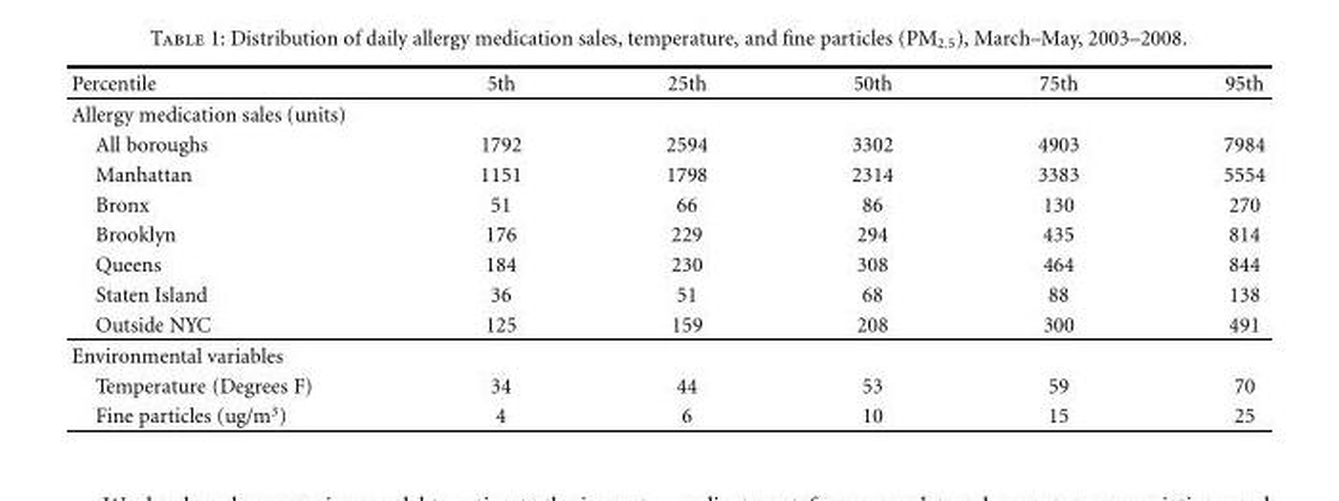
<table><thead><tr><td>Percentile</td><td>5th</td><td>25th</td><td>50th</td><td>75th</td><td>95th</td></tr></thead><tbody><tr><td colspan="6">Allergy medication sales (units)</td></tr><tr><td>All boroughs</td><td>1792</td><td>2594</td><td>3302</td><td>4903</td><td>7984</td></tr><tr><td>Manhattan</td><td>1151</td><td>1798</td><td>2314</td><td>3383</td><td>5554</td></tr><tr><td>Bronx</td><td>51</td><td>66</td><td>86</td><td>130</td><td>270</td></tr><tr><td>Brooklyn</td><td>176</td><td>229</td><td>294</td><td>435</td><td>814</td></tr><tr><td>Queens</td><td>184</td><td>230</td><td>308</td><td>464</td><td>844</td></tr><tr><td>Staten Island</td><td>36</td><td>51</td><td>68</td><td>88</td><td>138</td></tr><tr><td>Outside NYC</td><td>125</td><td>159</td><td>208</td><td>300</td><td>491</td></tr><tr><td colspan="6">Environmental variables</td></tr><tr><td>Temperature (Degrees F)</td><td>34</td><td>44</td><td>53</td><td>59</td><td>70</td></tr><tr><td>Fine particles (ug/m<sup>3</sup>)</td><td>4</td><td>6</td><td>10</td><td>15</td><td>25</td></tr></tbody></table>